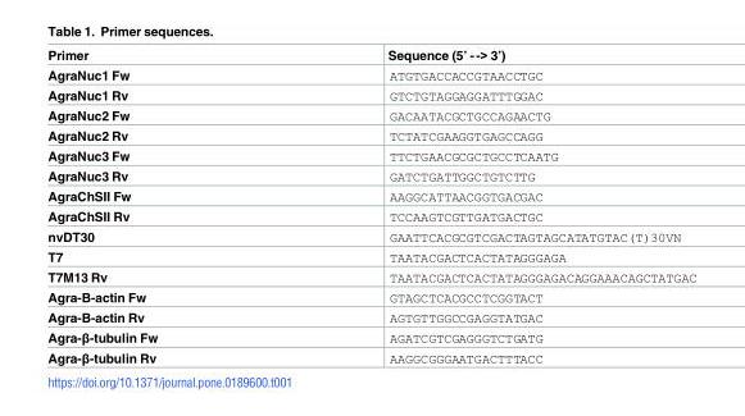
<table><thead><tr><td>Primer</td><td>Sequence (5’ --&gt; 3’)</td></tr></thead><tbody><tr><td>AgraNuc1 Fw</td><td>ATGTGACCACCGTAACCTGC</td></tr><tr><td>AgraNuc1 Rv</td><td>GTCTGTAGGAGGATTTGGAC</td></tr><tr><td>AgraNuc2 Fw</td><td>GACAATACGCTGCCAGAACTG</td></tr><tr><td>AgraNuc2 Rv</td><td>TCTATCGAAGGTGAGCCAGG</td></tr><tr><td>AgraNuc3 Fw</td><td>TTCTGAACGCGCTGCCTCAATG</td></tr><tr><td>AgraNuc3 Rv</td><td>GATCTGATTGGCTGTCTTG</td></tr><tr><td>AgraChSII Fw</td><td>AAGGCATTAACGGTGACGAC</td></tr><tr><td>AgraChSII Rv</td><td>TCCAAGTCGTTGATGACTGC</td></tr><tr><td>nvDT30</td><td>GAATTCACGCGTCGACTAGTAGCATATGTAC(T)30VN</td></tr><tr><td>T7</td><td>TAATACGACTCACTATAGGGAGA</td></tr><tr><td>T7M13 Rv</td><td>TAATACGACTCACTATAGGGAGACAGGAAACAGCTATGAC</td></tr><tr><td>Agra-B-actin Fw</td><td>GTAGCTCACGCCTCGGTACT</td></tr><tr><td>Agra-B-actin Rv</td><td>AGTGTTGGCCGAGGTATGAC</td></tr><tr><td>Agra-β-tubulin Fw</td><td>AGATCGTCGAGGGTCTGATG</td></tr><tr><td>Agra-β-tubulin Rv</td><td>AAGGCGGGAATGACTTTACC</td></tr></tbody></table>